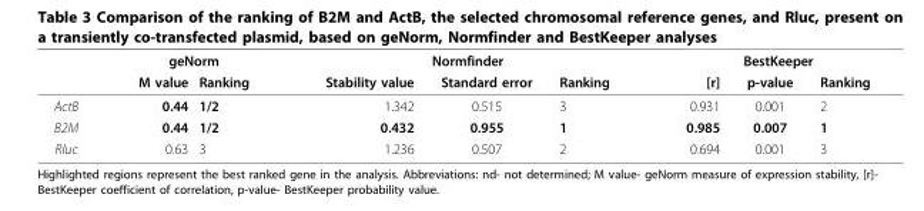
<table><thead><tr><td rowspan="2"></td><td colspan="2">geNorm</td><td colspan="3">Normfinder</td><td colspan="3">BestKeeper</td></tr><tr><td>M value</td><td>Ranking</td><td>Stability value</td><td>Standard error</td><td>Ranking</td><td>[r]</td><td>p-value</td><td>Ranking</td></tr></thead><tbody><tr><td>ActB</td><td>0.44</td><td>1/2</td><td>1.342</td><td>0.515</td><td>3</td><td>0.931</td><td>0.001</td><td>2</td></tr><tr><td>B2M</td><td>0.44</td><td>1/2</td><td>0.432</td><td>0.955</td><td>1</td><td>0.985</td><td>0.007</td><td>1</td></tr><tr><td>Rluc</td><td>0.63</td><td>3</td><td>1.236</td><td>0.507</td><td>2</td><td>0.694</td><td>0.001</td><td>3</td></tr></tbody></table>